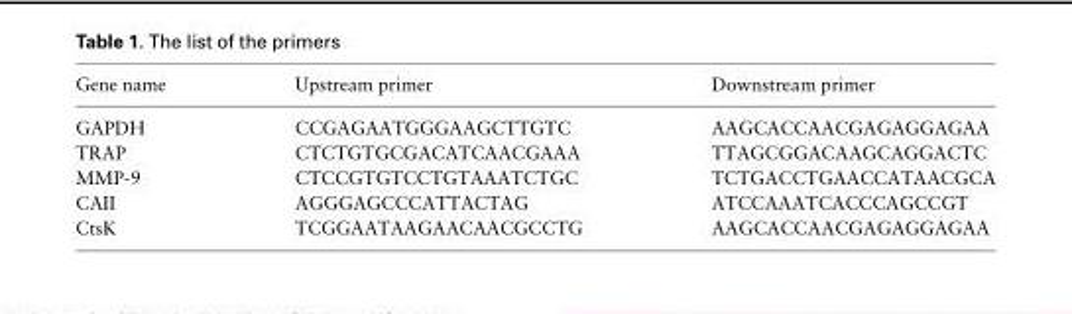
<table><thead><tr><td>Gene name</td><td>Upstream primer</td><td>Downstream primer</td></tr></thead><tbody><tr><td>GAPDH</td><td>CCGAGAATGGGAAGCTTGTC</td><td>AAGCACCAACGAGAGGAGAA</td></tr><tr><td>TRAP</td><td>CTCTGTGCGACATCAACGAAA</td><td>TTAGCGGACAAGCAGGACTC</td></tr><tr><td>MMP-9</td><td>CTCCGTGTCCTGTAAATCTGC</td><td>TCTGACCTGAACCATAACGCA</td></tr><tr><td>CAII</td><td>AGGGAGCCCATTACTAG</td><td>ATCCAAATCACCCAGCCGT</td></tr><tr><td>CtsK</td><td>TCGGAATAAGAACAACGCCTG</td><td>AAGCACCAACGAGAGGAGAA</td></tr></tbody></table>